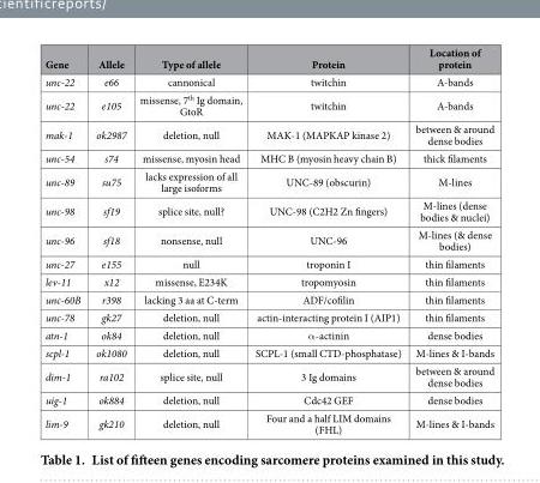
<table><thead><tr><td>Gene</td><td>Allele</td><td>Type of allele</td><td>Protein</td><td>Location of protein</td></tr></thead><tbody><tr><td>unc-22</td><td>e66</td><td>cannonical</td><td>twitchin</td><td>A-bands</td></tr><tr><td>unc-22</td><td>e105</td><td>missense, 7<sup>th</sup> Ig domain, GtoR</td><td>twitchin</td><td>A-bands</td></tr><tr><td>mak-1</td><td>ok2987</td><td>deletion, null</td><td>MAK-1 (MAPKAP kinase 2)</td><td>between &amp; around dense bodies</td></tr><tr><td>unc-54</td><td>s74</td><td>missense, myosin head</td><td>MHC B (myosin heavy chain B)</td><td>thick filaments</td></tr><tr><td>unc-89</td><td>su75</td><td>lacks expression of all large isoforms</td><td>UNC-89 (obscurin)</td><td>M-lines</td></tr><tr><td>unc-98</td><td>sf19</td><td>splice site, null?</td><td>UNC-98 (C2H2 Zn fingers)</td><td>M-lines (dense bodies &amp; nuclei)</td></tr><tr><td>unc-96</td><td>sf18</td><td>nonsense, null</td><td>UNC-96</td><td>M-lines (&amp; dense bodies)</td></tr><tr><td>unc-27</td><td>e155</td><td>null</td><td>troponin I</td><td>thin filaments</td></tr><tr><td>lev-11</td><td>x12</td><td>missense, E234K</td><td>tropomyosin</td><td>thin filaments</td></tr><tr><td>unc-60B</td><td>r398</td><td>lacking 3 aa at C-term</td><td>ADF/cofilin</td><td>thin filaments</td></tr><tr><td>unc-78</td><td>gk27</td><td>deletion, null</td><td>actin-interacting protein I (AIP1)</td><td>thin filaments</td></tr><tr><td>atn-1</td><td>ok84</td><td>deletion, null</td><td>α -actinin</td><td>dense bodies</td></tr><tr><td>scpl-1</td><td>ok1080</td><td>deletion, null</td><td>SCPL-1 (small CTD-phosphatase)</td><td>M-lines &amp; I-bands</td></tr><tr><td>dim-1</td><td>ra102</td><td>splice site, null</td><td>3 Ig domains</td><td>between &amp; around dense bodies</td></tr><tr><td>uig-1</td><td>ok884</td><td>deletion, null</td><td>Cdc42 GEF</td><td>dense bodies</td></tr><tr><td>lim-9</td><td>gk210</td><td>deletion, null</td><td>Four and a half LIM domains (FHL)</td><td>M-lines &amp; I-bands</td></tr></tbody></table>